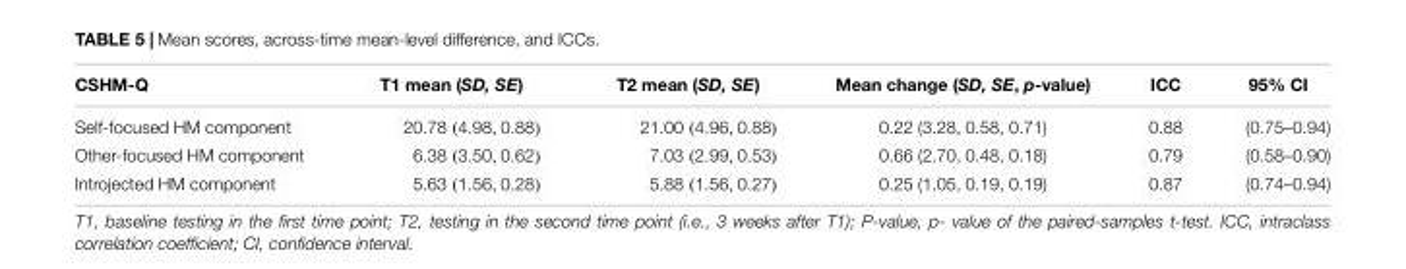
<table><thead><tr><td>CSHM-Q</td><td>T1 mean (SD, SE)</td><td>T2 mean (SD, SE)</td><td>Mean change (SD, SE, p-value)</td><td>ICC</td><td>95% CI</td></tr></thead><tbody><tr><td>Self-focused HM component</td><td>20.78 (4.98, 0.88)</td><td>21.00 (4.96, 0.88)</td><td>0.22 (3.28, 0.58, 0.71)</td><td>0.88</td><td>(0.75–0.94)</td></tr><tr><td>Other-focused HM component</td><td>6.38 (3.50, 0.62)</td><td>7.03 (2.99, 0.53)</td><td>0.66 (2.70, 0.48, 0.18)</td><td>0.79</td><td>(0.58–0.90)</td></tr><tr><td>Introjected HM component</td><td>5.63 (1.56, 0.28)</td><td>5.88 (1.56, 0.27)</td><td>0.25 (1.05, 0.19, 0.19)</td><td>0.87</td><td>(0.74–0.94)</td></tr></tbody></table>